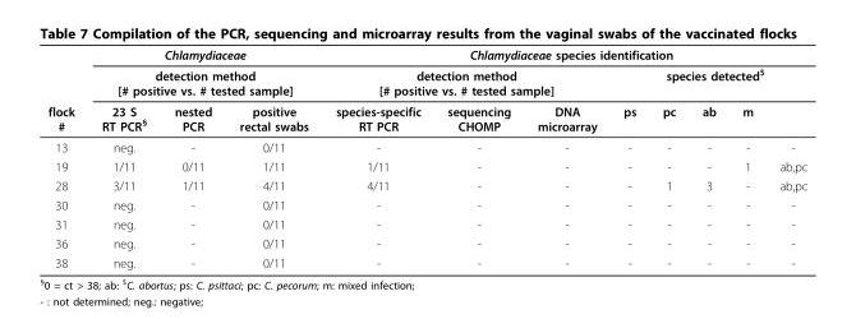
<table><thead><tr><td rowspan="3">flock #</td><td rowspan="2" colspan="3">Chlamydiaceae detection method [# positive vs. # tested sample]</td><td colspan="8">Chlamydiaceae species identification</td></tr><tr><td colspan="3">detection method [# positive vs. # tested sample]</td><td colspan="5">species detected<sup>$</sup></td></tr><tr><td>23 S RT PCR<sup>§</sup></td><td>nested PCR</td><td>positive rectal swabs</td><td>species-specific RT PCR</td><td>sequencing CHOMP</td><td>DNA microarray</td><td>ps</td><td>pc</td><td>ab</td><td>m</td><td></td></tr></thead><tbody><tr><td>13</td><td>neg.</td><td>-</td><td>0/11</td><td>-</td><td>-</td><td>-</td><td>-</td><td>-</td><td>-</td><td>-</td><td>-</td></tr><tr><td>19</td><td>1/11</td><td>0/11</td><td>1/11</td><td>1/11</td><td>-</td><td>-</td><td>-</td><td>-</td><td>-</td><td>1</td><td>ab,pc</td></tr><tr><td>28</td><td>3/11</td><td>1/11</td><td>4/11</td><td>4/11</td><td>-</td><td>-</td><td>-</td><td>1</td><td>3</td><td>-</td><td>ab,pc</td></tr><tr><td>30</td><td>neg.</td><td>-</td><td>0/11</td><td>-</td><td>-</td><td>-</td><td>-</td><td>-</td><td>-</td><td>-</td><td>-</td></tr><tr><td>31</td><td>neg.</td><td>-</td><td>0/11</td><td>-</td><td>-</td><td>-</td><td>-</td><td>-</td><td>-</td><td>-</td><td>-</td></tr><tr><td>36</td><td>neg.</td><td>-</td><td>0/11</td><td>-</td><td>-</td><td>-</td><td>-</td><td>-</td><td>-</td><td>-</td><td>-</td></tr><tr><td>38</td><td>neg.</td><td>-</td><td>0/11</td><td>-</td><td>-</td><td>-</td><td>-</td><td>-</td><td>-</td><td>-</td><td>-</td></tr></tbody></table>